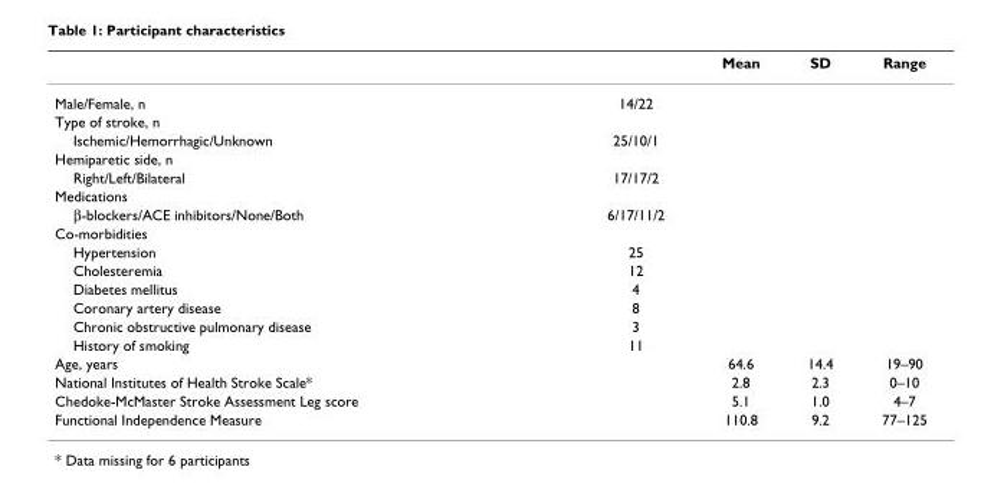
<table><thead><tr><td></td><td></td><td>Mean</td><td>SD</td><td>Range</td></tr></thead><tbody><tr><td>Male/Female, n</td><td>14/22</td><td></td><td></td><td></td></tr><tr><td colspan="5">Type of stroke, n</td></tr><tr><td>Ischemic/Hemorrhagic/Unknown</td><td>25/10/1</td><td></td><td></td><td></td></tr><tr><td colspan="5">Hemiparetic side, n</td></tr><tr><td>Right/Left/Bilateral</td><td>17/17/2</td><td></td><td></td><td></td></tr><tr><td colspan="5">Medications</td></tr><tr><td>β-blockers/ACE inhibitors/None/Both</td><td>6/17/11/2</td><td></td><td></td><td></td></tr><tr><td colspan="5">Co-morbidities</td></tr><tr><td>Hypertension</td><td>25</td><td></td><td></td><td></td></tr><tr><td>Cholesteremia</td><td>12</td><td></td><td></td><td></td></tr><tr><td>Diabetes mellitus</td><td>4</td><td></td><td></td><td></td></tr><tr><td>Coronary artery disease</td><td>8</td><td></td><td></td><td></td></tr><tr><td>Chronic obstructive pulmonary disease</td><td>3</td><td></td><td></td><td></td></tr><tr><td>History of smoking</td><td>11</td><td></td><td></td><td></td></tr><tr><td>Age, years</td><td></td><td>64.6</td><td>14.4</td><td>19–90</td></tr><tr><td>National Institutes of Health Stroke Scale*</td><td></td><td>2.8</td><td>2.3</td><td>0–10</td></tr><tr><td>Chedoke-McMaster Stroke Assessment Leg score</td><td></td><td>5.1</td><td>1.0</td><td>4–7</td></tr><tr><td>Functional Independence Measure</td><td></td><td>110.8</td><td>9.2</td><td>77–125</td></tr></tbody></table>